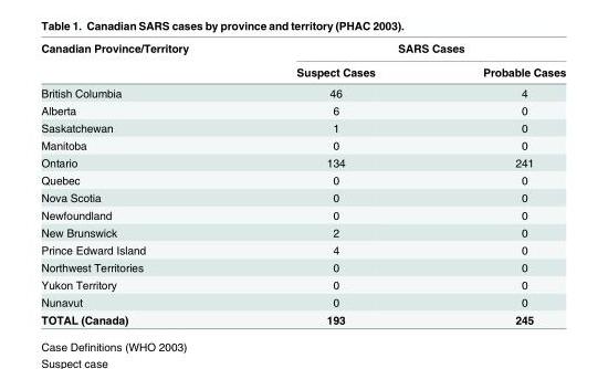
<table><thead><tr><td rowspan="2">Canadian Province/Territory</td><td colspan="2">SARS Cases</td></tr><tr><td>Suspect Cases</td><td>Probable Cases</td></tr></thead><tbody><tr><td>British Columbia</td><td>46</td><td>4</td></tr><tr><td>Alberta</td><td>6</td><td>0</td></tr><tr><td>Saskatchewan</td><td>1</td><td>0</td></tr><tr><td>Manitoba</td><td>0</td><td>0</td></tr><tr><td>Ontario</td><td>134</td><td>241</td></tr><tr><td>Quebec</td><td>0</td><td>0</td></tr><tr><td>Nova Scotia</td><td>0</td><td>0</td></tr><tr><td>Newfoundland</td><td>0</td><td>0</td></tr><tr><td>New Brunswick</td><td>2</td><td>0</td></tr><tr><td>Prince Edward Island</td><td>4</td><td>0</td></tr><tr><td>Northwest Territories</td><td>0</td><td>0</td></tr><tr><td>Yukon Territory</td><td>0</td><td>0</td></tr><tr><td>Nunavut</td><td>0</td><td>0</td></tr><tr><td>TOTAL (Canada)</td><td>193</td><td>245</td></tr></tbody></table>